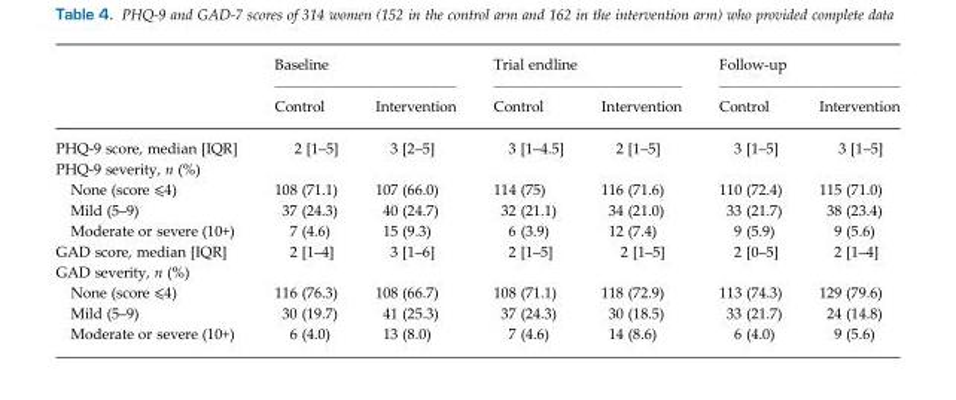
<table><thead><tr><td rowspan="2"></td><td colspan="2">Baseline</td><td colspan="2">Trial endline</td><td colspan="2">Follow-up</td></tr><tr><td>Control</td><td>Intervention</td><td>Control</td><td>Intervention</td><td>Control</td><td>Intervention</td></tr></thead><tbody><tr><td>PHQ-9 score, median [IQR]</td><td>2 [1–5]</td><td>3 [2–5]</td><td>3 [1–4.5]</td><td>2 [1–5]</td><td>3 [1–5]</td><td>3 [1–5]</td></tr><tr><td colspan="7">PHQ-9 severity, n (%)</td></tr><tr><td>None (score ⩽4)</td><td>108 (71.1)</td><td>107 (66.0)</td><td>114 (75)</td><td>116 (71.6)</td><td>110 (72.4)</td><td>115 (71.0)</td></tr><tr><td>Mild (5–9)</td><td>37 (24.3)</td><td>40 (24.7)</td><td>32 (21.1)</td><td>34 (21.0)</td><td>33 (21.7)</td><td>38 (23.4)</td></tr><tr><td>Moderate or severe (10+)</td><td>7 (4.6)</td><td>15 (9.3)</td><td>6 (3.9)</td><td>12 (7.4)</td><td>9 (5.9)</td><td>9 (5.6)</td></tr><tr><td>GAD score, median [IQR]</td><td>2 [1–4]</td><td>3 [1–6]</td><td>2 [1–5]</td><td>2 [1–5]</td><td>2 [0–5]</td><td>2 [1–4]</td></tr><tr><td colspan="7">GAD severity, n (%)</td></tr><tr><td>None (score ⩽4)</td><td>116 (76.3)</td><td>108 (66.7)</td><td>108 (71.1)</td><td>118 (72.9)</td><td>113 (74.3)</td><td>129 (79.6)</td></tr><tr><td>Mild (5–9)</td><td>30 (19.7)</td><td>41 (25.3)</td><td>37 (24.3)</td><td>30 (18.5)</td><td>33 (21.7)</td><td>24 (14.8)</td></tr><tr><td>Moderate or severe (10+)</td><td>6 (4.0)</td><td>13 (8.0)</td><td>7 (4.6)</td><td>14 (8.6)</td><td>6 (4.0)</td><td>9 (5.6)</td></tr></tbody></table>